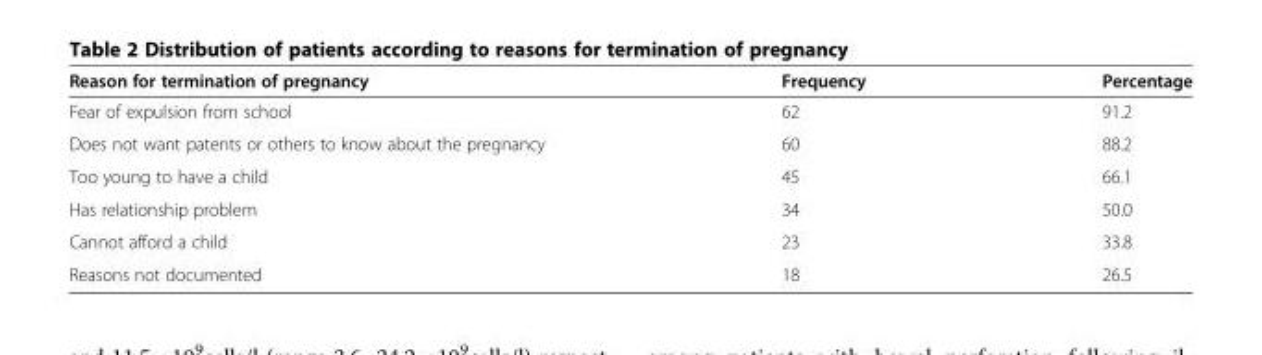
<table><thead><tr><td>Reason for termination of pregnancy</td><td>Frequency</td><td>Percentage</td></tr></thead><tbody><tr><td>Fear of expulsion from school</td><td>62</td><td>91.2</td></tr><tr><td>Does not want patents or others to know about the pregnancy</td><td>60</td><td>88.2</td></tr><tr><td>Too young to have a child</td><td>45</td><td>66.1</td></tr><tr><td>Has relationship problem</td><td>34</td><td>50.0</td></tr><tr><td>Cannot afford a child</td><td>23</td><td>33.8</td></tr><tr><td>Reasons not documented</td><td>18</td><td>26.5</td></tr></tbody></table>